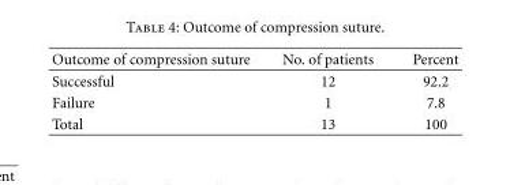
<table><thead><tr><td>Outcome of compression suture</td><td>No. of patients</td><td>Percent</td></tr></thead><tbody><tr><td>Successful</td><td>12</td><td>92.2</td></tr><tr><td>Failure</td><td>1</td><td>7.8</td></tr><tr><td>Total</td><td>13</td><td>100</td></tr></tbody></table>